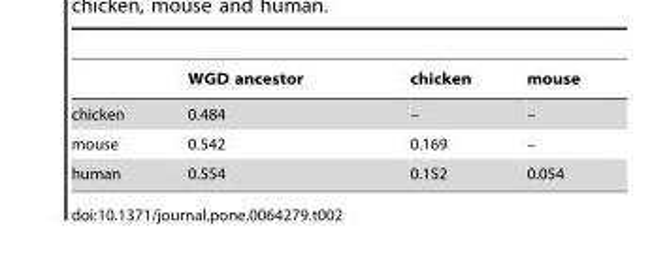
<table><thead><tr><td></td><td>WGD ancestor</td><td>chicken</td><td>mouse</td></tr></thead><tbody><tr><td>chicken</td><td>0.484</td><td>–</td><td>–</td></tr><tr><td>mouse</td><td>0.542</td><td>0.169</td><td>–</td></tr><tr><td>human</td><td>0.554</td><td>0.152</td><td>0.054</td></tr></tbody></table>